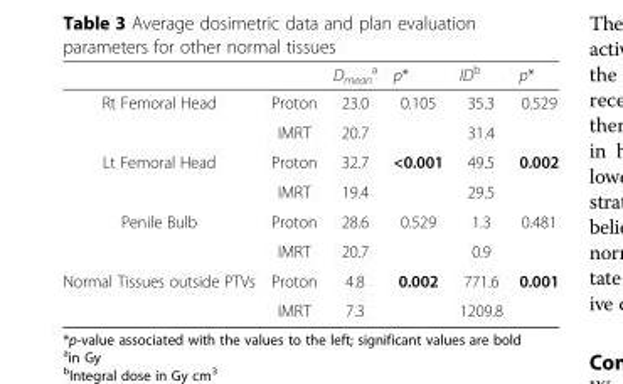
<table><thead><tr><td></td><td></td><td>D<sub>mean</sub> <sup>a</sup></td><td>p*</td><td>ID<sup>b</sup></td><td>p*</td></tr></thead><tbody><tr><td rowspan="2">Rt Femoral Head</td><td>Proton</td><td>23.0</td><td rowspan="2">0.105</td><td>35.3</td><td rowspan="2">0.529</td></tr><tr><td>IMRT</td><td>20.7</td><td>31.4</td></tr><tr><td rowspan="2">Lt Femoral Head</td><td>Proton</td><td>32.7</td><td rowspan="2">&lt;0.001</td><td>49.5</td><td rowspan="2">0.002</td></tr><tr><td>IMRT</td><td>19.4</td><td>29.5</td></tr><tr><td rowspan="2">Penile Bulb</td><td>Proton</td><td>28.6</td><td rowspan="2">0.529</td><td>1.3</td><td rowspan="2">0.481</td></tr><tr><td>IMRT</td><td>20.7</td><td>0.9</td></tr><tr><td rowspan="2">Normal Tissues outside PTVs</td><td>Proton</td><td>4.8</td><td rowspan="2">0.002</td><td>771.6</td><td rowspan="2">0.001</td></tr><tr><td>IMRT</td><td>7.3</td><td>1209.8</td></tr></tbody></table>